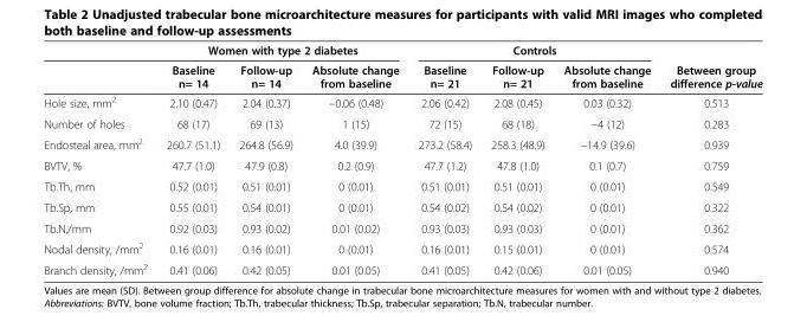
<table><thead><tr><td rowspan="2"></td><td colspan="3">Women with type 2 diabetes</td><td colspan="3">Controls</td><td rowspan="2">Between group difference p-value</td></tr><tr><td>Baseline n= 14</td><td>Follow-up n= 14</td><td>Absolute change from baseline</td><td>Baseline n= 21</td><td>Follow-up n= 21</td><td>Absolute change from baseline</td></tr></thead><tbody><tr><td>Hole size, mm<sup>2</sup></td><td>2.10 (0.47)</td><td>2.04 (0.37)</td><td>−0.06 (0.48)</td><td>2.06 (0.42)</td><td>2.08 (0.45)</td><td>0.03 (0.32)</td><td>0.513</td></tr><tr><td>Number of holes</td><td>68 (17)</td><td>69 (13)</td><td>1 (15)</td><td>72 (15)</td><td>68 (18)</td><td>−4 (12)</td><td>0.283</td></tr><tr><td>Endosteal area, mm<sup>2</sup></td><td>260.7 (51.1)</td><td>264.8 (56.9)</td><td>4.0 (39.9)</td><td>273.2 (58.4)</td><td>258.3 (48.9)</td><td>−14.9 (39.6)</td><td>0.939</td></tr><tr><td>BVTV, %</td><td>47.7 (1.0)</td><td>47.9 (0.8)</td><td>0.2 (0.9)</td><td>47.7 (1.2)</td><td>47.8 (1.0)</td><td>0.1 (0.7)</td><td>0.759</td></tr><tr><td>Tb.Th, mm</td><td>0.52 (0.01)</td><td>0.51 (0.01)</td><td>0 (0.01)</td><td>0.51 (0.01)</td><td>0.51 (0.01)</td><td>0 (0.01)</td><td>0.549</td></tr><tr><td>Tb.Sp, mm</td><td>0.55 (0.01)</td><td>0.54 (0.01)</td><td>0 (0.01)</td><td>0.54 (0.02)</td><td>0.54 (0.02)</td><td>0 (0.01)</td><td>0.322</td></tr><tr><td>Tb.N,/mm</td><td>0.92 (0.03)</td><td>0.93 (0.02)</td><td>0.01 (0.02)</td><td>0.93 (0.03)</td><td>0.93 (0.03)</td><td>0 (0.01)</td><td>0.362</td></tr><tr><td>Nodal density, /mm<sup>2</sup></td><td>0.16 (0.01)</td><td>0.16 (0.01)</td><td>0 (0.01)</td><td>0.16 (0.01)</td><td>0.15 (0.01)</td><td>0 (0.01)</td><td>0.574</td></tr><tr><td>Branch density, /mm<sup>2</sup></td><td>0.41 (0.06)</td><td>0.42 (0.05)</td><td>0.01 (0.05)</td><td>0.41 (0.05)</td><td>0.42 (0.06)</td><td>0.01 (0.05)</td><td>0.940</td></tr></tbody></table>